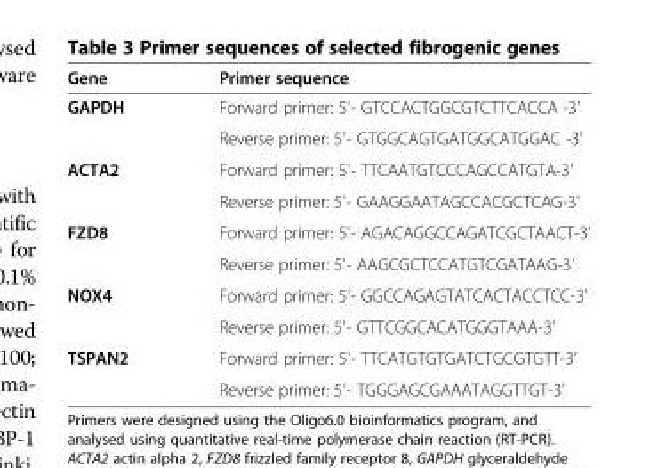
<table><thead><tr><td>Gene</td><td>Primer sequence</td></tr></thead><tbody><tr><td rowspan="2">GAPDH</td><td>Forward primer: 5&#x27;- GTCCACTGGCGTCTTCACCA -3&#x27;</td></tr><tr><td>Reverse primer: 5&#x27;- GTGGCAGTGATGGCATGGAC -3&#x27;</td></tr><tr><td rowspan="2">ACTA2</td><td>Forward primer: 5&#x27;- TTCAATGTCCCAGCCATGTA-3&#x27;</td></tr><tr><td>Reverse primer: 5&#x27;- GAAGGAATAGCCACGCTCAG-3&#x27;</td></tr><tr><td rowspan="2">FZD8</td><td>Forward primer: 5&#x27;- AGACAGGCCAGATCGCTAACT-3&#x27;</td></tr><tr><td>Reverse primer: 5&#x27;- AAGCGCTCCATGTCGATAAG-3&#x27;</td></tr><tr><td rowspan="2">NOX4</td><td>Forward primer: 5&#x27;- GGCCAGAGTATCACTACCTCC-3&#x27;</td></tr><tr><td>Reverse primer: 5&#x27;- GTTCGGCACATGGGTAAA-3&#x27;</td></tr><tr><td rowspan="2">TSPAN2</td><td>Forward primer: 5&#x27;- TTCATGTGTGATCTGCGTGTT-3&#x27;</td></tr><tr><td>Reverse primer: 5&#x27;- TGGGAGCGAAATAGGTTGT-3&#x27;</td></tr></tbody></table>